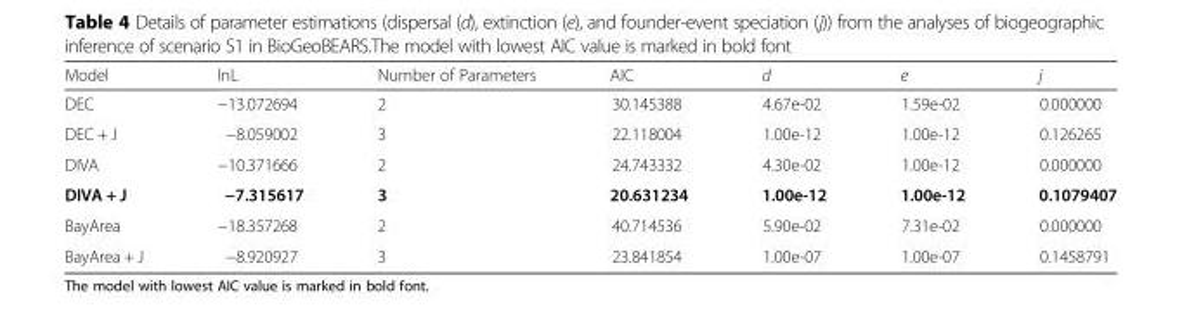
<table><thead><tr><td>Model</td><td>lnL</td><td>Number of Parameters</td><td>AIC</td><td>d</td><td>e</td><td>j</td></tr></thead><tbody><tr><td>DEC</td><td>−13.072694</td><td>2</td><td>30.145388</td><td>4.67e-02</td><td>1.59e-02</td><td>0.000000</td></tr><tr><td>DEC + J</td><td>−8.059002</td><td>3</td><td>22.118004</td><td>1.00e-12</td><td>1.00e-12</td><td>0.126265</td></tr><tr><td>DIVA</td><td>−10.371666</td><td>2</td><td>24.743332</td><td>4.30e-02</td><td>1.00e-12</td><td>0.000000</td></tr><tr><td>DIVA + J</td><td>−7.315617</td><td>3</td><td>20.631234</td><td>1.00e-12</td><td>1.00e-12</td><td>0.1079407</td></tr><tr><td>BayArea</td><td>−18.357268</td><td>2</td><td>40.714536</td><td>5.90e-02</td><td>7.31e-02</td><td>0.000000</td></tr><tr><td>BayArea + J</td><td>−8.920927</td><td>3</td><td>23.841854</td><td>1.00e-07</td><td>1.00e-07</td><td>0.1458791</td></tr></tbody></table>